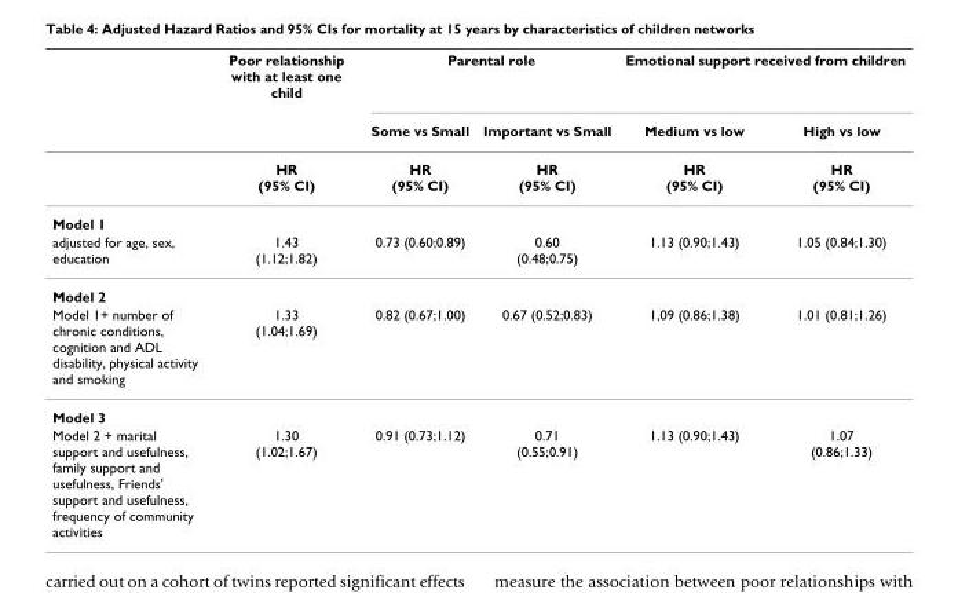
<table><thead><tr><td rowspan="2"></td><td rowspan="2">Poor relationship with at least one child</td><td colspan="2">Parental role</td><td colspan="2">Emotional support received from children</td></tr><tr><td>Some vs Small</td><td>Important vs Small</td><td>Medium vs low</td><td>High vs low</td></tr></thead><tbody><tr><td></td><td>HR (95% CI)</td><td>HR (95% CI)</td><td>HR (95% CI)</td><td>HR (95% CI)</td><td>HR (95% CI)</td></tr><tr><td colspan="6">Model 1</td></tr><tr><td>adjusted for age, sex, education</td><td>1.43 (1.12;1.82)</td><td>0.73 (0.60;0.89)</td><td>0.60 (0.48;0.75)</td><td>1.13 (0.90;1.43)</td><td>1.05 (0.84;1.30)</td></tr><tr><td colspan="6">Model 2</td></tr><tr><td>Model 1+ number of chronic conditions, cognition and ADL disability, physical activity and smoking</td><td>1.33 (1.04;1.69)</td><td>0.82 (0.67;1.00)</td><td>0.67 (0.52;0.83)</td><td>1,09 (0.86;1.38)</td><td>1.01 (0.81;1.26)</td></tr><tr><td colspan="6">Model 3</td></tr><tr><td>Model 2 + marital support and usefulness, family support and usefulness, Friends&#x27; support and usefulness, frequency of community activities</td><td>1.30 (1.02;1.67)</td><td>0.91 (0.73;1.12)</td><td>0.71 (0.55;0.91)</td><td>1.13 (0.90;1.43)</td><td>1.07 (0.86;1.33)</td></tr></tbody></table>